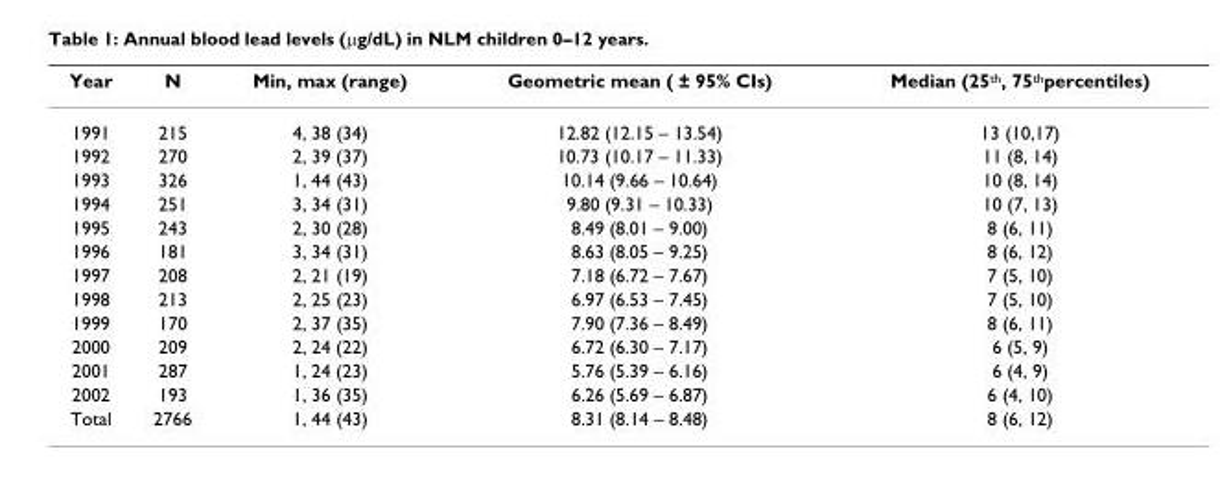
<table><thead><tr><td>Year</td><td>N</td><td>Min, max (range)</td><td>Geometric mean ( ± 95% CIs)</td><td>Median (25<sup>th</sup>, 75<sup>th</sup>percentiles)</td></tr></thead><tbody><tr><td>1991</td><td>215</td><td>4, 38 (34)</td><td>12.82 (12.15 – 13.54)</td><td>13 (10,17)</td></tr><tr><td>1992</td><td>270</td><td>2, 39 (37)</td><td>10.73 (10.17 – 11.33)</td><td>11 (8, 14)</td></tr><tr><td>1993</td><td>326</td><td>1, 44 (43)</td><td>10.14 (9.66 – 10.64)</td><td>10 (8, 14)</td></tr><tr><td>1994</td><td>251</td><td>3, 34 (31)</td><td>9.80 (9.31 – 10.33)</td><td>10 (7, 13)</td></tr><tr><td>1995</td><td>243</td><td>2, 30 (28)</td><td>8.49 (8.01 – 9.00)</td><td>8 (6, 11)</td></tr><tr><td>1996</td><td>181</td><td>3, 34 (31)</td><td>8.63 (8.05 – 9.25)</td><td>8 (6, 12)</td></tr><tr><td>1997</td><td>208</td><td>2, 21 (19)</td><td>7.18 (6.72 – 7.67)</td><td>7 (5, 10)</td></tr><tr><td>1998</td><td>213</td><td>2, 25 (23)</td><td>6.97 (6.53 – 7.45)</td><td>7 (5, 10)</td></tr><tr><td>1999</td><td>170</td><td>2, 37 (35)</td><td>7.90 (7.36 – 8.49)</td><td>8 (6, 11)</td></tr><tr><td>2000</td><td>209</td><td>2, 24 (22)</td><td>6.72 (6.30 – 7.17)</td><td>6 (5, 9)</td></tr><tr><td>2001</td><td>287</td><td>1, 24 (23)</td><td>5.76 (5.39 – 6.16)</td><td>6 (4, 9)</td></tr><tr><td>2002</td><td>193</td><td>1, 36 (35)</td><td>6.26 (5.69 – 6.87)</td><td>6 (4, 10)</td></tr><tr><td>Total</td><td>2766</td><td>1, 44 (43)</td><td>8.31 (8.14 – 8.48)</td><td>8 (6, 12)</td></tr></tbody></table>